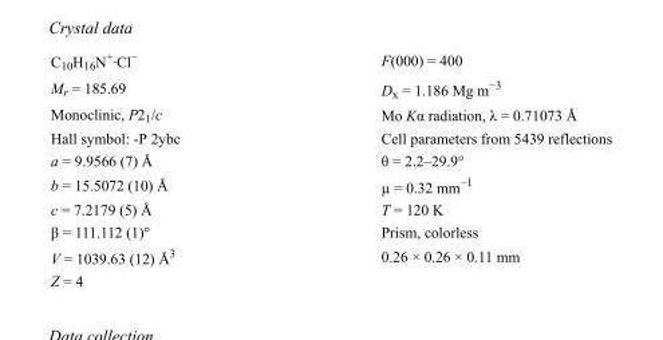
<table><tbody><tr><td>C<sub>10</sub>H<sub>16</sub>N<sup>+</sup>·Cl<sup>−</sup></td><td>F(000) = 400</td></tr><tr><td>M<sub>r</sub> = 185.69</td><td>D<sub>x</sub> = 1.186 Mg m<sup>−3</sup></td></tr><tr><td>Monoclinic, P2<sub>1</sub>/c</td><td>Mo Kα radiation, λ = 0.71073 Å</td></tr><tr><td>Hall symbol: -P 2ybc</td><td>Cell parameters from 5439 reflections</td></tr><tr><td>a = 9.9566 (7) Å</td><td>θ = 2.2–29.9°</td></tr><tr><td>b = 15.5072 (10) Å</td><td>µ = 0.32 mm<sup>−1</sup></td></tr><tr><td>c = 7.2179 (5) Å</td><td>T = 120 K</td></tr><tr><td>β = 111.112 (1)°</td><td>Prism, colorless</td></tr><tr><td>V = 1039.63 (12) Å<sup>3</sup></td><td>0.26 × 0.26 × 0.11 mm</td></tr><tr><td>Z = 4</td><td></td></tr></tbody></table>